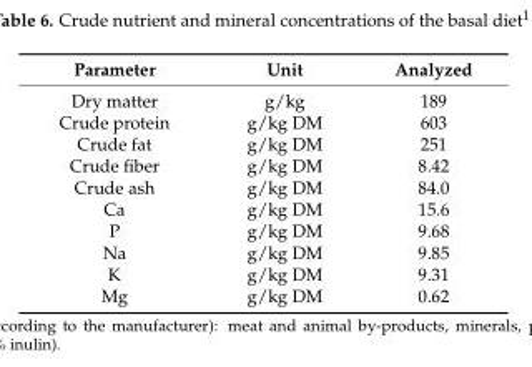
<table><thead><tr><td>Parameter</td><td>Unit</td><td>Analyzed</td></tr></thead><tbody><tr><td>Dry matter</td><td>g/kg</td><td>189</td></tr><tr><td>Crude protein</td><td>g/kg DM</td><td>603</td></tr><tr><td>Crude fat</td><td>g/kg DM</td><td>251</td></tr><tr><td>Crude fiber</td><td>g/kg DM</td><td>8.42</td></tr><tr><td>Crude ash</td><td>g/kg DM</td><td>84.0</td></tr><tr><td>Ca</td><td>g/kg DM</td><td>15.6</td></tr><tr><td>P</td><td>g/kg DM</td><td>9.68</td></tr><tr><td>Na</td><td>g/kg DM</td><td>9.85</td></tr><tr><td>K</td><td>g/kg DM</td><td>9.31</td></tr><tr><td>Mg</td><td>g/kg DM</td><td>0.62</td></tr></tbody></table>